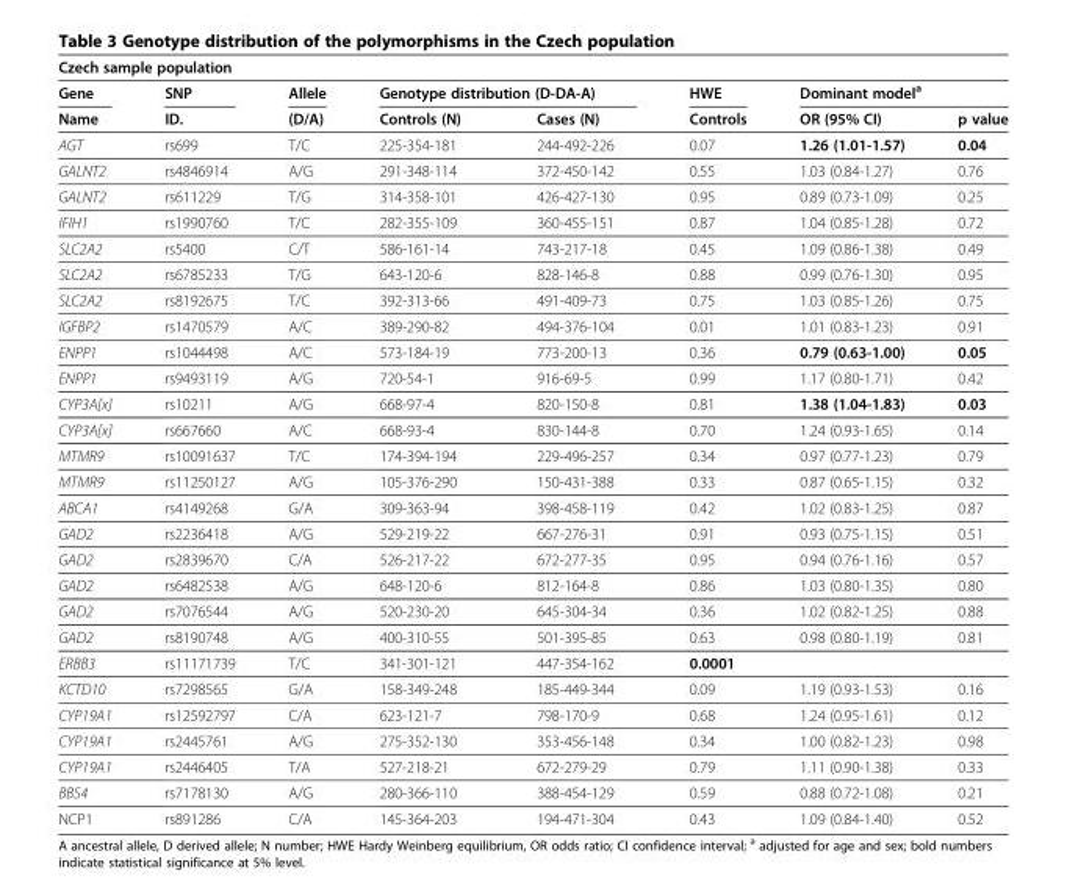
<table><thead><tr><td colspan="8">Czech sample population</td></tr><tr><td rowspan="2">Gene Name</td><td rowspan="2">SNP ID.</td><td rowspan="2">Allele (D/A)</td><td colspan="2">Genotype distribution (D-DA-A)</td><td rowspan="2">HWE Controls</td><td colspan="2">Dominant model<sup>a</sup></td></tr><tr><td>Controls (N)</td><td>Cases (N)</td><td>OR (95% CI)</td><td>p value</td></tr></thead><tbody><tr><td>AGT</td><td>rs699</td><td>T/C</td><td>225-354-181</td><td>244-492-226</td><td>0.07</td><td>1.26 (1.01-1.57)</td><td>0.04</td></tr><tr><td>GALNT2</td><td>rs4846914</td><td>A/G</td><td>291-348-114</td><td>372-450-142</td><td>0.55</td><td>1.03 (0.84-1.27)</td><td>0.76</td></tr><tr><td>GALNT2</td><td>rs611229</td><td>T/G</td><td>314-358-101</td><td>426-427-130</td><td>0.95</td><td>0.89 (0.73-1.09)</td><td>0.25</td></tr><tr><td>IFIH1</td><td>rs1990760</td><td>T/C</td><td>282-355-109</td><td>360-455-151</td><td>0.87</td><td>1.04 (0.85-1.28)</td><td>0.72</td></tr><tr><td>SLC2A2</td><td>rs5400</td><td>C/T</td><td>586-161-14</td><td>743-217-18</td><td>0.45</td><td>1.09 (0.86-1.38)</td><td>0.49</td></tr><tr><td>SLC2A2</td><td>rs6785233</td><td>T/G</td><td>643-120-6</td><td>828-146-8</td><td>0.88</td><td>0.99 (0.76-1.30)</td><td>0.95</td></tr><tr><td>SLC2A2</td><td>rs8192675</td><td>T/C</td><td>392-313-66</td><td>491-409-73</td><td>0.75</td><td>1.03 (0.85-1.26)</td><td>0.75</td></tr><tr><td>IGFBP2</td><td>rs1470579</td><td>A/C</td><td>389-290-82</td><td>494-376-104</td><td>0.01</td><td>1.01 (0.83-1.23)</td><td>0.91</td></tr><tr><td>ENPP1</td><td>rs1044498</td><td>A/C</td><td>573-184-19</td><td>773-200-13</td><td>0.36</td><td>0.79 (0.63-1.00)</td><td>0.05</td></tr><tr><td>ENPP1</td><td>rs9493119</td><td>A/G</td><td>720-54-1</td><td>916-69-5</td><td>0.99</td><td>1.17 (0.80-1.71)</td><td>0.42</td></tr><tr><td>CYP3A[x]</td><td>rs10211</td><td>A/G</td><td>668-97-4</td><td>820-150-8</td><td>0.81</td><td>1.38 (1.04-1.83)</td><td>0.03</td></tr><tr><td>CYP3A[x]</td><td>rs667660</td><td>A/C</td><td>668-93-4</td><td>830-144-8</td><td>0.70</td><td>1.24 (0.93-1.65)</td><td>0.14</td></tr><tr><td>MTMR9</td><td>rs10091637</td><td>T/C</td><td>174-394-194</td><td>229-496-257</td><td>0.34</td><td>0.97 (0.77-1.23)</td><td>0.79</td></tr><tr><td>MTMR9</td><td>rs11250127</td><td>A/G</td><td>105-376-290</td><td>150-431-388</td><td>0.33</td><td>0.87 (0.65-1.15)</td><td>0.32</td></tr><tr><td>ABCA1</td><td>rs4149268</td><td>G/A</td><td>309-363-94</td><td>398-458-119</td><td>0.42</td><td>1.02 (0.83-1.25)</td><td>0.87</td></tr><tr><td>GAD2</td><td>rs2236418</td><td>A/G</td><td>529-219-22</td><td>667-276-31</td><td>0.91</td><td>0.93 (0.75-1.15)</td><td>0.51</td></tr><tr><td>GAD2</td><td>rs2839670</td><td>C/A</td><td>526-217-22</td><td>672-277-35</td><td>0.95</td><td>0.94 (0.76-1.16)</td><td>0.57</td></tr><tr><td>GAD2</td><td>rs6482538</td><td>A/G</td><td>648-120-6</td><td>812-164-8</td><td>0.86</td><td>1.03 (0.80-1.35)</td><td>0.80</td></tr><tr><td>GAD2</td><td>rs7076544</td><td>A/G</td><td>520-230-20</td><td>645-304-34</td><td>0.36</td><td>1.02 (0.82-1.25)</td><td>0.88</td></tr><tr><td>GAD2</td><td>rs8190748</td><td>A/G</td><td>400-310-55</td><td>501-395-85</td><td>0.63</td><td>0.98 (0.80-1.19)</td><td>0.81</td></tr><tr><td>ERBB3</td><td>rs11171739</td><td>T/C</td><td>341-301-121</td><td>447-354-162</td><td>0.0001</td><td></td><td></td></tr><tr><td>KCTD10</td><td>rs7298565</td><td>G/A</td><td>158-349-248</td><td>185-449-344</td><td>0.09</td><td>1.19 (0.93-1.53)</td><td>0.16</td></tr><tr><td>CYP19A1</td><td>rs12592797</td><td>C/A</td><td>623-121-7</td><td>798-170-9</td><td>0.68</td><td>1.24 (0.95-1.61)</td><td>0.12</td></tr><tr><td>CYP19A1</td><td>rs2445761</td><td>A/G</td><td>275-352-130</td><td>353-456-148</td><td>0.34</td><td>1.00 (0.82-1.23)</td><td>0.98</td></tr><tr><td>CYP19A1</td><td>rs2446405</td><td>T/A</td><td>527-218-21</td><td>672-279-29</td><td>0.79</td><td>1.11 (0.90-1.38)</td><td>0.33</td></tr><tr><td>BBS4</td><td>rs7178130</td><td>A/G</td><td>280-366-110</td><td>388-454-129</td><td>0.59</td><td>0.88 (0.72-1.08)</td><td>0.21</td></tr><tr><td>NCP1</td><td>rs891286</td><td>C/A</td><td>145-364-203</td><td>194-471-304</td><td>0.43</td><td>1.09 (0.84-1.40)</td><td>0.52</td></tr></tbody></table>